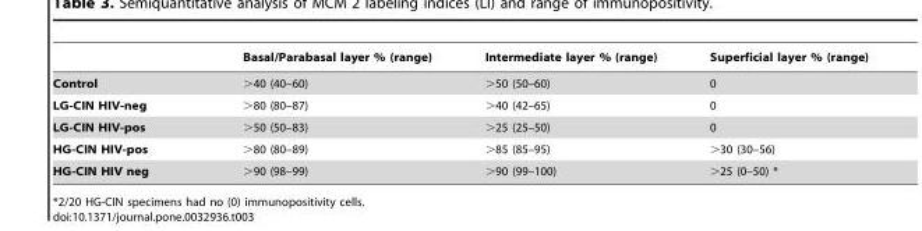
<table><thead><tr><td></td><td>Basal/Parabasal layer % (range)</td><td>Intermediate layer % (range)</td><td>Superficial layer % (range)</td></tr></thead><tbody><tr><td>Control</td><td>&gt;40 (40–60)</td><td>&gt;50 (50–60)</td><td>0</td></tr><tr><td>LG-CIN HIV-neg</td><td>&gt;80 (80–87)</td><td>&gt;40 (42–65)</td><td>0</td></tr><tr><td>LG-CIN HIV-pos</td><td>&gt;50 (50–83)</td><td>&gt;25 (25–50)</td><td>0</td></tr><tr><td>HG-CIN HIV-pos</td><td>&gt;80 (80–89)</td><td>&gt;85 (85–95)</td><td>&gt;30 (30–56)</td></tr><tr><td>HG-CIN HIV neg</td><td>&gt;90 (98–99)</td><td>&gt;90 (99–100)</td><td>&gt;25 (0–50) *</td></tr></tbody></table>